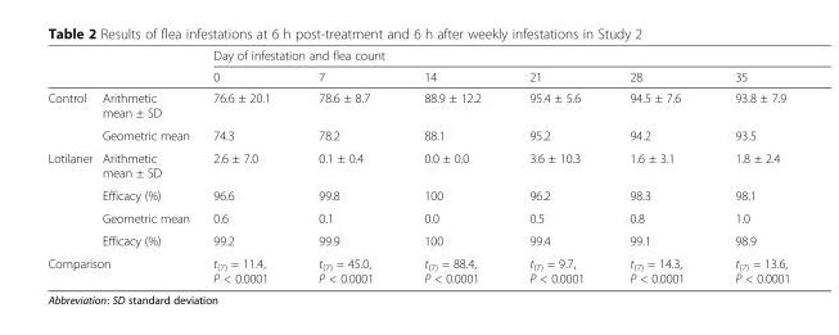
<table><thead><tr><td rowspan="2"></td><td rowspan="2"></td><td colspan="6">Day of infestation and flea count</td></tr><tr><td>0</td><td>7</td><td>14</td><td>21</td><td>28</td><td>35</td></tr></thead><tbody><tr><td rowspan="2">Control</td><td>Arithmetic mean ± SD</td><td>76.6 ± 20.1</td><td>78.6 ± 8.7</td><td>88.9 ± 12.2</td><td>95.4 ± 5.6</td><td>94.5 ± 7.6</td><td>93.8 ± 7.9</td></tr><tr><td>Geometric mean</td><td>74.3</td><td>78.2</td><td>88.1</td><td>95.2</td><td>94.2</td><td>93.5</td></tr><tr><td rowspan="4">Lotilaner</td><td>Arithmetic mean ± SD</td><td>2.6 ± 7.0</td><td>0.1 ± 0.4</td><td>0.0 ± 0.0</td><td>3.6 ± 10.3</td><td>1.6 ± 3.1</td><td>1.8 ± 2.4</td></tr><tr><td>Efficacy (%)</td><td>96.6</td><td>99.8</td><td>100</td><td>96.2</td><td>98.3</td><td>98.1</td></tr><tr><td>Geometric mean</td><td>0.6</td><td>0.1</td><td>0.0</td><td>0.5</td><td>0.8</td><td>1.0</td></tr><tr><td>Efficacy (%)</td><td>99.2</td><td>99.9</td><td>100</td><td>99.4</td><td>99.1</td><td>98.9</td></tr><tr><td colspan="2">Comparison</td><td>t<sub>(7)</sub> = 11.4, P &lt; 0.0001</td><td>t<sub>(7)</sub> = 45.0, P &lt; 0.0001</td><td>t<sub>(7)</sub> = 88.4, P &lt; 0.0001</td><td>t<sub>(7)</sub> = 9.7, P &lt; 0.0001</td><td>t<sub>(7)</sub> = 14.3, P &lt; 0.0001</td><td>t<sub>(7)</sub> = 13.6, P &lt; 0.0001</td></tr></tbody></table>